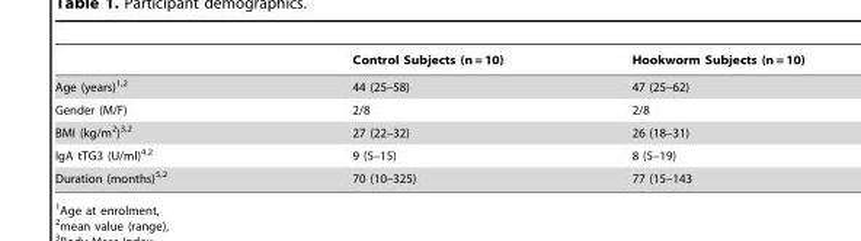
<table><thead><tr><td></td><td>Control Subjects (n = 10)</td><td>Hookworm Subjects (n = 10)</td></tr></thead><tbody><tr><td>Age (years)<sup>1,</sup>2</td><td>44 (25–58)</td><td>47 (25–62)</td></tr><tr><td>Gender (M/F)</td><td>2/8</td><td>2/8</td></tr><tr><td>BMI (kg/m<sup>2</sup>)<sup>3,</sup>2</td><td>27 (22–32)</td><td>26 (18–31)</td></tr><tr><td>IgA tTG3 (U/ml)<sup>4,</sup>2</td><td>9 (5–15)</td><td>8 (5–19)</td></tr><tr><td>Duration (months)<sup>5,</sup>2</td><td>70 (10–325)</td><td>77 (15–143</td></tr></tbody></table>